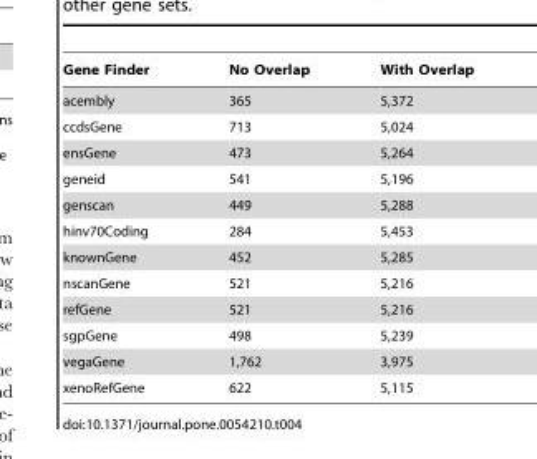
<table><thead><tr><td>Gene Finder</td><td>No Overlap</td><td>With Overlap</td></tr></thead><tbody><tr><td>acembly</td><td>365</td><td>5,372</td></tr><tr><td>ccdsGene</td><td>713</td><td>5,024</td></tr><tr><td>ensGene</td><td>473</td><td>5,264</td></tr><tr><td>geneid</td><td>541</td><td>5,196</td></tr><tr><td>genscan</td><td>449</td><td>5,288</td></tr><tr><td>hinv70Coding</td><td>284</td><td>5,453</td></tr><tr><td>knownGene</td><td>452</td><td>5,285</td></tr><tr><td>nscanGene</td><td>521</td><td>5,216</td></tr><tr><td>refGene</td><td>521</td><td>5,216</td></tr><tr><td>sgpGene</td><td>498</td><td>5,239</td></tr><tr><td>vegaGene</td><td>1,762</td><td>3,975</td></tr><tr><td>xenoRefGene</td><td>622</td><td>5,115</td></tr></tbody></table>